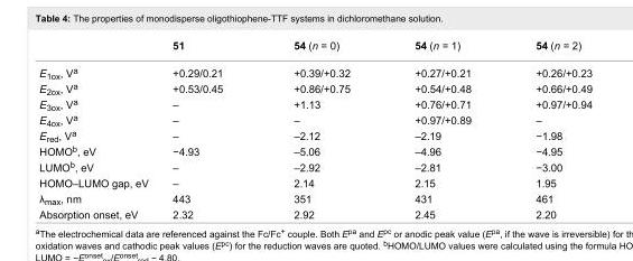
<table><thead><tr><td></td><td>51</td><td>54 (n = 0)</td><td>54 (n = 1)</td><td>54 (n = 2)</td></tr></thead><tbody><tr><td>E<sub>1ox</sub>, V<sup>a</sup></td><td>+0.29/0.21</td><td>+0.39/+0.32</td><td>+0.27/+0.21</td><td>+0.26/+0.23</td></tr><tr><td>E<sub>2ox</sub>, V<sup>a</sup></td><td>+0.53/0.45</td><td>+0.86/+0.75</td><td>+0.54/+0.48</td><td>+0.66/+0.49</td></tr><tr><td>E<sub>3ox</sub>, V<sup>a</sup></td><td>–</td><td>+1.13</td><td>+0.76/+0.71</td><td>+0.97/+0.94</td></tr><tr><td>E<sub>4ox</sub>, V<sup>a</sup></td><td>–</td><td>–</td><td>+0.97/+0.89</td><td>–</td></tr><tr><td>E<sub>red</sub>, V<sup>a</sup></td><td>–</td><td>–2.12</td><td>–2.19</td><td>−1.98</td></tr><tr><td>HOMO<sup>b</sup>, eV</td><td>−4.93</td><td>–5.06</td><td>–4.96</td><td>−4.95</td></tr><tr><td>LUMO<sup>b</sup>, eV</td><td>–</td><td>–2.92</td><td>–2.81</td><td>−3.00</td></tr><tr><td>HOMO–LUMO gap, eV</td><td>–</td><td>2.14</td><td>2.15</td><td>1.95</td></tr><tr><td>λ<sub>max</sub>, nm</td><td>443</td><td>351</td><td>431</td><td>461</td></tr><tr><td>Absorption onset, eV</td><td>2.32</td><td>2.92</td><td>2.45</td><td>2.20</td></tr></tbody></table>